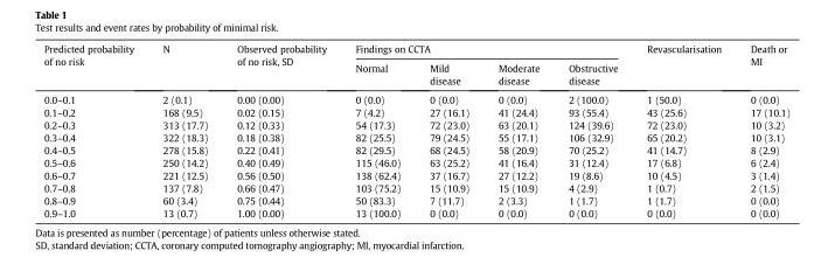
<table><thead><tr><td rowspan="2">Predicted probability of no risk</td><td rowspan="2">N</td><td rowspan="2">Observed probability of no risk, SD</td><td colspan="4">Findings on CCTA</td><td rowspan="2">Revascularisation</td><td rowspan="2">Death or MI</td></tr><tr><td>Normal</td><td>Mild disease</td><td>Moderate disease</td><td>Obstructive disease</td></tr></thead><tbody><tr><td>0.0–0.1</td><td>2 (0.1)</td><td>0.00 (0.00)</td><td>0 (0.0)</td><td>0 (0.0)</td><td>0 (0.0)</td><td>2 (100.0)</td><td>1 (50.0)</td><td>0 (0.0)</td></tr><tr><td>0.1–0.2</td><td>168 (9.5)</td><td>0.02 (0.15)</td><td>7 (4.2)</td><td>27 (16.1)</td><td>41 (24.4)</td><td>93 (55.4)</td><td>43 (25.6)</td><td>17 (10.1)</td></tr><tr><td>0.2–0.3</td><td>313 (17.7)</td><td>0.12 (0.33)</td><td>54 (17.3)</td><td>72 (23.0)</td><td>63 (20.1)</td><td>124 (39.6)</td><td>72 (23.0)</td><td>10 (3.2)</td></tr><tr><td>0.3–0.4</td><td>322 (18.3)</td><td>0.18 (0.38)</td><td>82 (25.5)</td><td>79 (24.5)</td><td>55 (17.1)</td><td>106 (32.9)</td><td>65 (20.2)</td><td>10 (3.1)</td></tr><tr><td>0.4–0.5</td><td>278 (15.8)</td><td>0.22 (0.41)</td><td>82 (29.5)</td><td>68 (24.5)</td><td>58 (20.9)</td><td>70 (25.2)</td><td>41 (14.7)</td><td>8 (2.9)</td></tr><tr><td>0.5–0.6</td><td>250 (14.2)</td><td>0.40 (0.49)</td><td>115 (46.0)</td><td>63 (25.2)</td><td>41 (16.4)</td><td>31 (12.4)</td><td>17 (6.8)</td><td>6 (2.4)</td></tr><tr><td>0.6–0.7</td><td>221 (12.5)</td><td>0.56 (0.50)</td><td>138 (62.4)</td><td>37 (16.7)</td><td>27 (12.2)</td><td>19 (8.6)</td><td>10 (4.5)</td><td>3 (1.4)</td></tr><tr><td>0.7–0.8</td><td>137 (7.8)</td><td>0.66 (0.47)</td><td>103 (75.2)</td><td>15 (10.9)</td><td>15 (10.9)</td><td>4 (2.9)</td><td>1 (0.7)</td><td>2 (1.5)</td></tr><tr><td>0.8–0.9</td><td>60 (3.4)</td><td>0.75 (0.44)</td><td>50 (83.3)</td><td>7 (11.7)</td><td>2 (3.3)</td><td>1 (1.7)</td><td>1 (1.7)</td><td>0 (0.0)</td></tr><tr><td>0.9–1.0</td><td>13 (0.7)</td><td>1.00 (0.00)</td><td>13 (100.0)</td><td>0 (0.0)</td><td>0 (0.0)</td><td>0 (0.0)</td><td>0 (0.0)</td><td>0 (0.0)</td></tr></tbody></table>